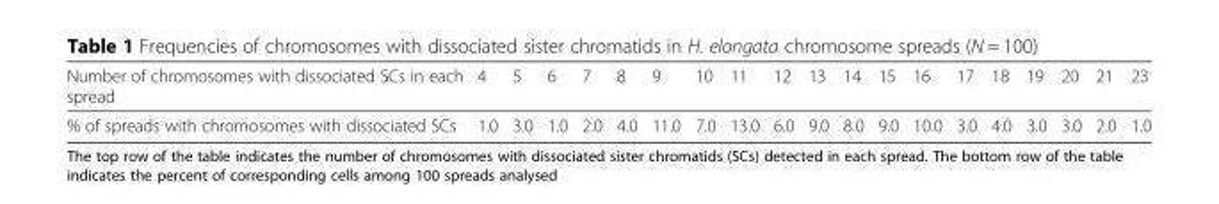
<table><thead><tr><td>Number of chromosomes with dissociated SCs in each spread</td><td>4</td><td>5</td><td>6</td><td>7</td><td>8</td><td>9</td><td>10</td><td>11</td><td>12</td><td>13</td><td>14</td><td>15</td><td>16</td><td>17</td><td>18</td><td>19</td><td>20</td><td>21</td><td>23</td></tr></thead><tbody><tr><td>% of spreads with chromosomes with dissociated SCs</td><td>1.0</td><td>3.0</td><td>1.0</td><td>2.0</td><td>4.0</td><td>11.0</td><td>7.0</td><td>13.0</td><td>6.0</td><td>9.0</td><td>8.0</td><td>9.0</td><td>10.0</td><td>3.0</td><td>4.0</td><td>3.0</td><td>3.0</td><td>2.0</td><td>1.0</td></tr></tbody></table>